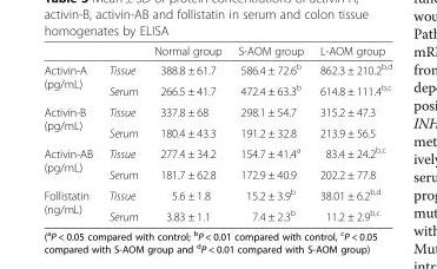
<table><thead><tr><td></td><td></td><td>Normal group</td><td>S-AOM group</td><td>L-AOM group</td></tr></thead><tbody><tr><td rowspan="2">Activin-A (pg/mL)</td><td>Tissue</td><td>388.8 ± 61.7</td><td>586.4 ± 72.6<sup>b</sup></td><td>862.3 ± 210.2<sup>b,d</sup></td></tr><tr><td>Serum</td><td>266.5 ± 41.7</td><td>472.4 ± 63.3<sup>b</sup></td><td>614.8 ± 111.4<sup>b,c</sup></td></tr><tr><td rowspan="2">Activin-B (pg/mL)</td><td>Tissue</td><td>337.8 ± 68</td><td>298.1 ± 54.7</td><td>315.2 ± 47.3</td></tr><tr><td>Serum</td><td>180.4 ± 43.3</td><td>191.2 ± 32.8</td><td>213.9 ± 56.5</td></tr><tr><td rowspan="2">Activin-AB (pg/mL)</td><td>Tissue</td><td>277.4 ± 34.2</td><td>154.7 ± 41.4<sup>a</sup></td><td>83.4 ± 24.2<sup>b,c</sup></td></tr><tr><td>Serum</td><td>181.7 ± 62.8</td><td>172.9 ± 40.9</td><td>202.2 ± 77.8</td></tr><tr><td rowspan="2">Follistatin (ng/mL)</td><td>Tissue</td><td>5.6 ± 1.8</td><td>15.2 ± 3.9<sup>b</sup></td><td>38.01 ± 6.2<sup>b,d</sup></td></tr><tr><td>Serum</td><td>3.83 ± 1.1</td><td>7.4 ± 2.3<sup>b</sup></td><td>11.2 ± 2.9<sup>b,c</sup></td></tr></tbody></table>